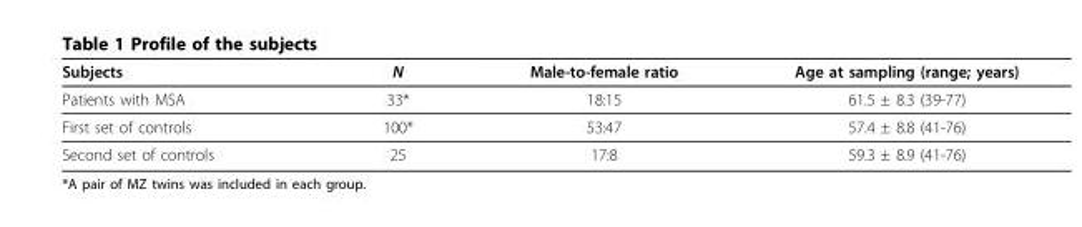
<table><thead><tr><td>Subjects</td><td>N</td><td>Male-to-female ratio</td><td>Age at sampling (range; years)</td></tr></thead><tbody><tr><td>Patients with MSA</td><td>33*</td><td>18:15</td><td>61.5 ± 8.3 (39-77)</td></tr><tr><td>First set of controls</td><td>100*</td><td>53:47</td><td>57.4 ± 8.8 (41-76)</td></tr><tr><td>Second set of controls</td><td>25</td><td>17:8</td><td>59.3 ± 8.9 (41-76)</td></tr></tbody></table>